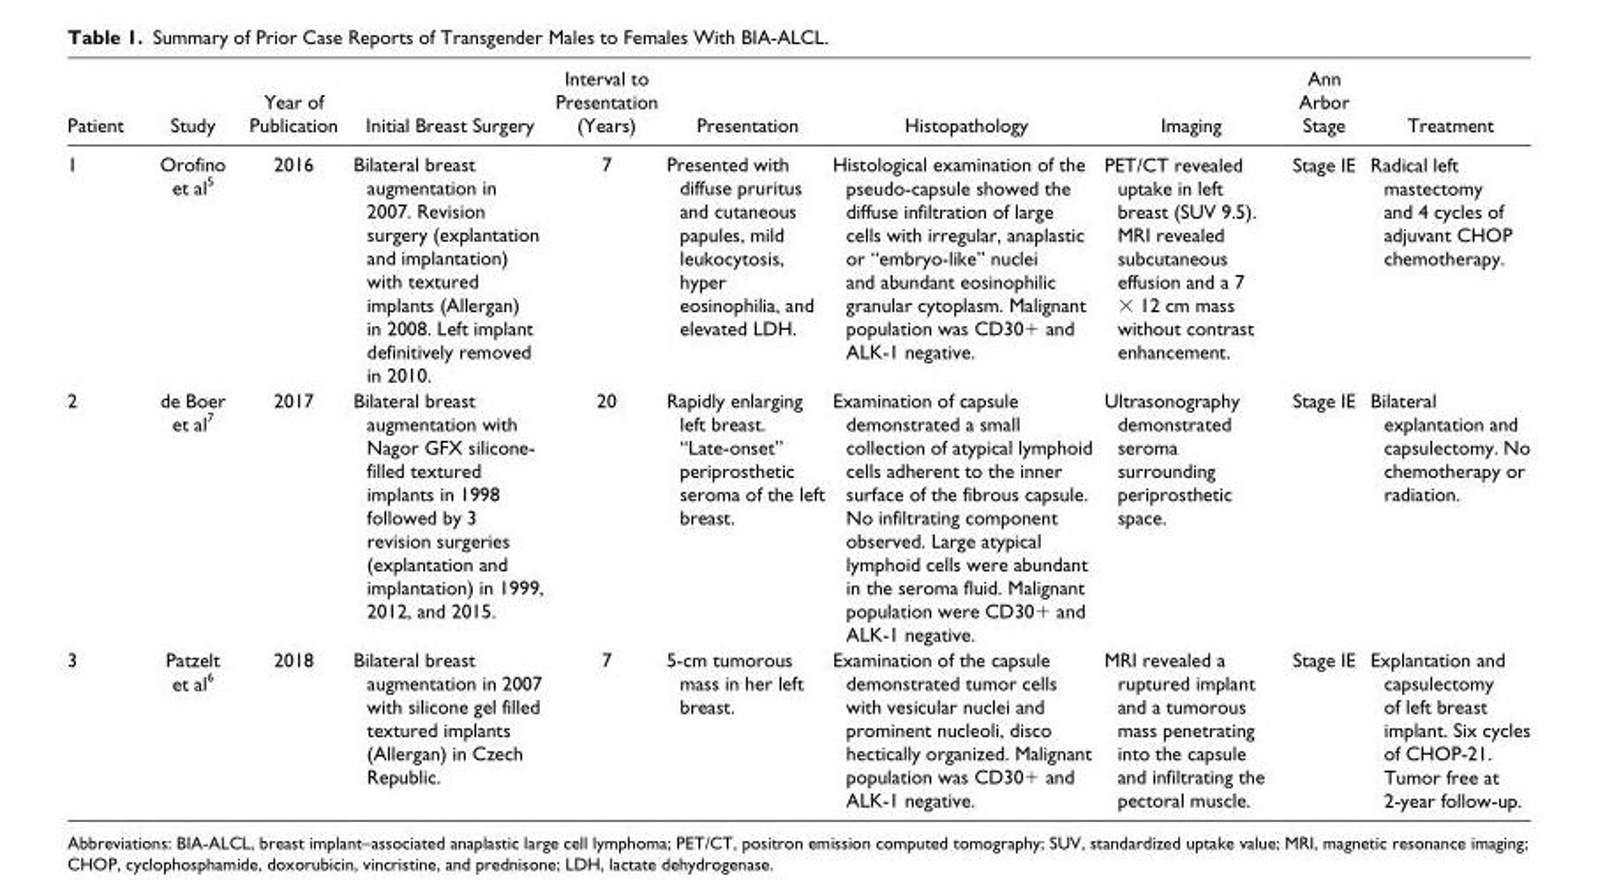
<table><thead><tr><td>Patient</td><td>Study</td><td>Year of Publication</td><td>Initial Breast Surgery</td><td>Interval to Presentation (Years)</td><td>Presentation</td><td>Histopathology</td><td>Imaging</td><td>Ann Arbor Stage</td><td>Treatment</td></tr></thead><tbody><tr><td>1</td><td>Orofino et al<sup>5</sup></td><td>2016</td><td>Bilateral breast augmentation in 2007. Revision surgery (explantation and implantation) with textured implants (Allergan) in 2008. Left implant definitively removed in 2010.</td><td>7</td><td>Presented with diffuse pruritus and cutaneous papules, mild leukocytosis, hyper eosinophilia, and elevated LDH.</td><td>Histological examination of the pseudo-capsule showed the diffuse infiltration of large cells with irregular, anaplastic or “embryo-like” nuclei and abundant eosinophilic granular cytoplasm. Malignant population was CD30+ and ALK-1 negative.</td><td>PET/CT revealed uptake in left breast (SUV 9.5). MRI revealed subcutaneous effusion and a 7 × 12 cm mass without contrast enhancement.</td><td>Stage IE</td><td>Radical left mastectomy and 4 cycles of adjuvant CHOP chemotherapy.</td></tr><tr><td>2</td><td>de Boer et al<sup>7</sup></td><td>2017</td><td>Bilateral breast augmentation with Nagor GFX silicone- filled textured implants in 1998 followed by 3 revision surgeries (explantation and implantation) in 1999, 2012, and 2015.</td><td>20</td><td>Rapidly enlarging left breast. “Late-onset” periprosthetic seroma of the left breast.</td><td>Examination of capsule demonstrated a small collection of atypical lymphoid cells adherent to the inner surface of the fibrous capsule. No infiltrating component observed. Large atypical lymphoid cells were abundant in the seroma fluid. Malignant population were CD30+ and ALK-1 negative.</td><td>Ultrasonography demonstrated seroma surrounding periprosthetic space.</td><td>Stage IE</td><td>Bilateral explantation and capsulectomy. No chemotherapy or radiation.</td></tr><tr><td>3</td><td>Patzelt et al<sup>6</sup></td><td>2018</td><td>Bilateral breast augmentation in 2007 with silicone gel filled textured implants (Allergan) in Czech Republic.</td><td>7</td><td>5-cm tumorous mass in her left breast.</td><td>Examination of the capsule demonstrated tumor cells with vesicular nuclei and prominent nucleoli, disco hectically organized. Malignant population was CD30+ and ALK-1 negative.</td><td>MRI revealed a ruptured implant and a tumorous mass penetrating into the capsule and infiltrating the pectoral muscle.</td><td>Stage IE</td><td>Explantation and capsulectomy of left breast implant. Six cycles of CHOP-21. Tumor free at 2-year follow-up.</td></tr></tbody></table>